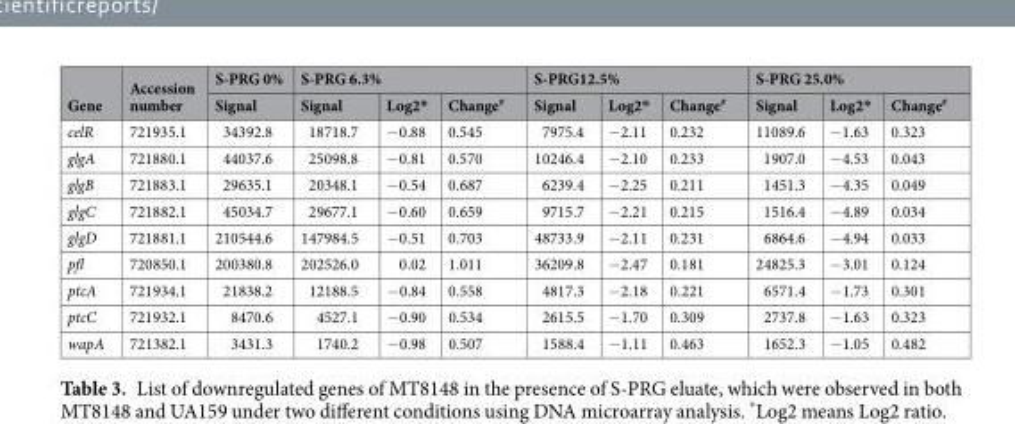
<table><thead><tr><td rowspan="2">Gene</td><td rowspan="2">Accession number</td><td rowspan="2">S-PRG 0% Signal</td><td colspan="3">S-PRG 6.3%</td><td colspan="3">S-PRG12.5%</td><td colspan="3">S-PRG 25.0%</td></tr><tr><td>Signal</td><td>Log2*</td><td>Change<sup>#</sup></td><td>Signal</td><td>Log2*</td><td>Change<sup>#</sup></td><td>Signal</td><td>Log2*</td><td>Change<sup>#</sup></td></tr></thead><tbody><tr><td>celR</td><td>721935.1</td><td>34392.8</td><td>18718.7</td><td>−0.88</td><td>0.545</td><td>7975.4</td><td>−2.11</td><td>0.232</td><td>11089.6</td><td>−1.63</td><td>0.323</td></tr><tr><td>glgA</td><td>721880.1</td><td>44037.6</td><td>25098.8</td><td>−0.81</td><td>0.570</td><td>10246.4</td><td>−2.10</td><td>0.233</td><td>1907.0</td><td>−4.53</td><td>0.043</td></tr><tr><td>glgB</td><td>721883.1</td><td>29635.1</td><td>20348.1</td><td>−0.54</td><td>0.687</td><td>6239.4</td><td>−2.25</td><td>0.211</td><td>1451.3</td><td>−4.35</td><td>0.049</td></tr><tr><td>glgC</td><td>721882.1</td><td>45034.7</td><td>29677.1</td><td>−0.60</td><td>0.659</td><td>9715.7</td><td>−2.21</td><td>0.215</td><td>1516.4</td><td>−4.89</td><td>0.034</td></tr><tr><td>glgD</td><td>721881.1</td><td>210544.6</td><td>147984.5</td><td>−0.51</td><td>0.703</td><td>48733.9</td><td>−2.11</td><td>0.231</td><td>6864.6</td><td>−4.94</td><td>0.033</td></tr><tr><td>pfl</td><td>720850.1</td><td>200380.8</td><td>202526.0</td><td>0.02</td><td>1.011</td><td>36209.8</td><td>−2.47</td><td>0.181</td><td>24825.3</td><td>−3.01</td><td>0.124</td></tr><tr><td>ptcA</td><td>721934.1</td><td>21838.2</td><td>12188.5</td><td>−0.84</td><td>0.558</td><td>4817.3</td><td>−2.18</td><td>0.221</td><td>6571.4</td><td>−1.73</td><td>0.301</td></tr><tr><td>ptcC</td><td>721932.1</td><td>8470.6</td><td>4527.1</td><td>−0.90</td><td>0.534</td><td>2615.5</td><td>−1.70</td><td>0.309</td><td>2737.8</td><td>−1.63</td><td>0.323</td></tr><tr><td>wapA</td><td>721382.1</td><td>3431.3</td><td>1740.2</td><td>−0.98</td><td>0.507</td><td>1588.4</td><td>−1.11</td><td>0.463</td><td>1652.3</td><td>−1.05</td><td>0.482</td></tr></tbody></table>